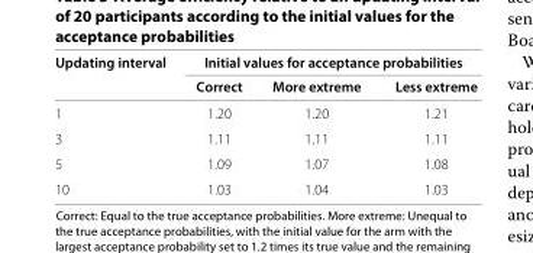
<table><thead><tr><td rowspan="2">Updating interval</td><td colspan="3">Initial values for acceptance probabilities</td></tr><tr><td>Correct</td><td>More extreme</td><td>Less extreme</td></tr></thead><tbody><tr><td>1</td><td>1.20</td><td>1.20</td><td>1.21</td></tr><tr><td>3</td><td>1.11</td><td>1.11</td><td>1.11</td></tr><tr><td>5</td><td>1.09</td><td>1.07</td><td>1.08</td></tr><tr><td>10</td><td>1.03</td><td>1.04</td><td>1.03</td></tr></tbody></table>